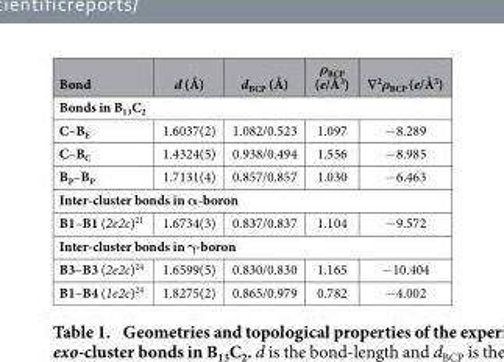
<table><thead><tr><td>Bond</td><td>d (Å)</td><td>d<sub>BCP</sub> (Å)</td><td>ρ<sub>BCP</sub> (e/Å<sup>3</sup>)</td><td>∇<sup>2</sup>ρ<sub>BCP</sub> (e/Å<sup>5</sup>)</td></tr></thead><tbody><tr><td colspan="5">Bonds in B<sub>13</sub>C<sub>2</sub></td></tr><tr><td>C–B<sub>E</sub></td><td>1.6037(2)</td><td>1.082/0.523</td><td>1.097</td><td>− 8.289</td></tr><tr><td>C–B<sub>C</sub></td><td>1.4324(5)</td><td>0.938/0.494</td><td>1.556</td><td>− 8.985</td></tr><tr><td>B<sub>P</sub>–B<sub>P</sub></td><td>1.7131(4)</td><td>0.857/0.857</td><td>1.030</td><td>− 6.463</td></tr><tr><td colspan="5">Inter-cluster bonds in α-boron</td></tr><tr><td>B1–B1 (2e2c)<sup>21</sup></td><td>1.6734(3)</td><td>0.837/0.837</td><td>1.104</td><td>− 9.572</td></tr><tr><td colspan="5">Inter-cluster bonds in γ-boron</td></tr><tr><td>B3–B3 (2e2c)<sup>24</sup></td><td>1.6599(5)</td><td>0.830/0.830</td><td>1.165</td><td>− 10.404</td></tr><tr><td>B1–B4 (1e2c)<sup>24</sup></td><td>1.8275(2)</td><td>0.865/0.979</td><td>0.782</td><td>− 4.002</td></tr></tbody></table>